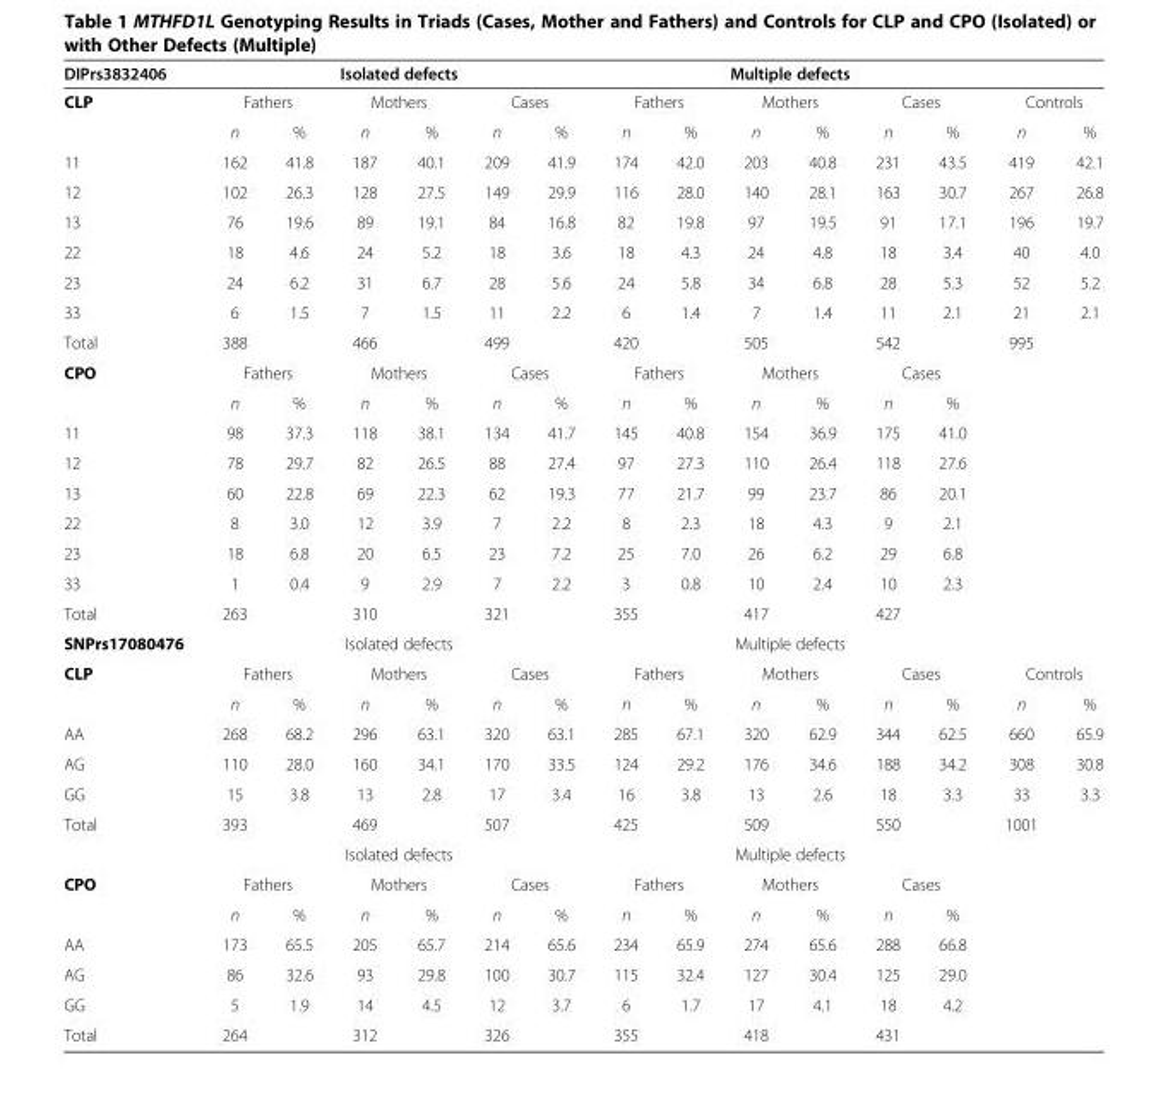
<table><thead><tr><td rowspan="3">DIPrs3832406 CLP</td><td colspan="6">Isolated defects</td><td colspan="6">Multiple defects</td><td></td><td></td></tr><tr><td colspan="2">Fathers</td><td colspan="2">Mothers</td><td colspan="2">Cases</td><td colspan="2">Fathers</td><td colspan="2">Mothers</td><td colspan="2">Cases</td><td colspan="2">Controls</td></tr><tr><td>n</td><td>%</td><td>n</td><td>%</td><td>n</td><td>%</td><td>n</td><td>%</td><td>n</td><td>%</td><td>n</td><td>%</td><td>n</td><td>%</td></tr></thead><tbody><tr><td>11</td><td>162</td><td>41.8</td><td>187</td><td>40.1</td><td>209</td><td>41.9</td><td>174</td><td>42.0</td><td>203</td><td>40.8</td><td>231</td><td>43.5</td><td>419</td><td>42.1</td></tr><tr><td>12</td><td>102</td><td>26.3</td><td>128</td><td>27.5</td><td>149</td><td>29.9</td><td>116</td><td>28.0</td><td>140</td><td>28.1</td><td>163</td><td>30.7</td><td>267</td><td>26.8</td></tr><tr><td>13</td><td>76</td><td>19.6</td><td>89</td><td>19.1</td><td>84</td><td>16.8</td><td>82</td><td>19.8</td><td>97</td><td>19.5</td><td>91</td><td>17.1</td><td>196</td><td>19.7</td></tr><tr><td>22</td><td>18</td><td>4.6</td><td>24</td><td>5.2</td><td>18</td><td>3.6</td><td>18</td><td>4.3</td><td>24</td><td>4.8</td><td>18</td><td>3.4</td><td>40</td><td>4.0</td></tr><tr><td>23</td><td>24</td><td>6.2</td><td>31</td><td>6.7</td><td>28</td><td>5.6</td><td>24</td><td>5.8</td><td>34</td><td>6.8</td><td>28</td><td>5.3</td><td>52</td><td>5.2</td></tr><tr><td>33</td><td>6</td><td>1.5</td><td>7</td><td>1.5</td><td>11</td><td>2.2</td><td>6</td><td>1.4</td><td>7</td><td>1.4</td><td>11</td><td>2.1</td><td>21</td><td>2.1</td></tr><tr><td>Total</td><td>388</td><td></td><td>466</td><td></td><td>499</td><td></td><td>420</td><td></td><td>505</td><td></td><td>542</td><td></td><td>995</td><td></td></tr><tr><td rowspan="2">CPO</td><td colspan="2">Fathers</td><td colspan="2">Mothers</td><td colspan="2">Cases</td><td colspan="2">Fathers</td><td colspan="2">Mothers</td><td colspan="2">Cases</td><td></td><td></td></tr><tr><td>n</td><td>%</td><td>n</td><td>%</td><td>n</td><td>%</td><td>n</td><td>%</td><td>n</td><td>%</td><td>n</td><td>%</td><td></td><td></td></tr><tr><td>11</td><td>98</td><td>37.3</td><td>118</td><td>38.1</td><td>134</td><td>41.7</td><td>145</td><td>40.8</td><td>154</td><td>36.9</td><td>175</td><td>41.0</td><td></td><td></td></tr><tr><td>12</td><td>78</td><td>29.7</td><td>82</td><td>26.5</td><td>88</td><td>27.4</td><td>97</td><td>27.3</td><td>110</td><td>26.4</td><td>118</td><td>27.6</td><td></td><td></td></tr><tr><td>13</td><td>60</td><td>22.8</td><td>69</td><td>22.3</td><td>62</td><td>19.3</td><td>77</td><td>21.7</td><td>99</td><td>23.7</td><td>86</td><td>20.1</td><td></td><td></td></tr><tr><td>22</td><td>8</td><td>3.0</td><td>12</td><td>3.9</td><td>7</td><td>2.2</td><td>8</td><td>2.3</td><td>18</td><td>4.3</td><td>9</td><td>2.1</td><td></td><td></td></tr><tr><td>23</td><td>18</td><td>6.8</td><td>20</td><td>6.5</td><td>23</td><td>7.2</td><td>25</td><td>7.0</td><td>26</td><td>6.2</td><td>29</td><td>6.8</td><td></td><td></td></tr><tr><td>33</td><td>1</td><td>0.4</td><td>9</td><td>2.9</td><td>7</td><td>2.2</td><td>3</td><td>0.8</td><td>10</td><td>2.4</td><td>10</td><td>2.3</td><td></td><td></td></tr><tr><td>Total</td><td>263</td><td></td><td>310</td><td></td><td>321</td><td></td><td>355</td><td></td><td>417</td><td></td><td>427</td><td></td><td></td><td></td></tr><tr><td>SNPrs17080476</td><td colspan="6">Isolated defects</td><td colspan="6">Multiple defects</td><td></td><td></td></tr><tr><td rowspan="2">CLP</td><td colspan="2">Fathers</td><td colspan="2">Mothers</td><td colspan="2">Cases</td><td colspan="2">Fathers</td><td colspan="2">Mothers</td><td colspan="2">Cases</td><td colspan="2">Controls</td></tr><tr><td>n</td><td>%</td><td>n</td><td>%</td><td>n</td><td>%</td><td>n</td><td>%</td><td>n</td><td>%</td><td>n</td><td>%</td><td>n</td><td>%</td></tr><tr><td>AA</td><td>268</td><td>68.2</td><td>296</td><td>63.1</td><td>320</td><td>63.1</td><td>285</td><td>67.1</td><td>320</td><td>62.9</td><td>344</td><td>62.5</td><td>660</td><td>65.9</td></tr><tr><td>AG</td><td>110</td><td>28.0</td><td>160</td><td>34.1</td><td>170</td><td>33.5</td><td>124</td><td>29.2</td><td>176</td><td>34.6</td><td>188</td><td>34.2</td><td>308</td><td>30.8</td></tr><tr><td>GG</td><td>15</td><td>3.8</td><td>13</td><td>2.8</td><td>17</td><td>3.4</td><td>16</td><td>3.8</td><td>13</td><td>2.6</td><td>18</td><td>3.3</td><td>33</td><td>3.3</td></tr><tr><td rowspan="2">Total</td><td>393</td><td></td><td>469</td><td></td><td>507</td><td></td><td>425</td><td></td><td>509</td><td></td><td>550</td><td></td><td>1001</td><td></td></tr><tr><td colspan="6">Isolated defects</td><td colspan="6">Multiple defects</td><td></td><td></td></tr><tr><td rowspan="2">CPO</td><td colspan="2">Fathers</td><td colspan="2">Mothers</td><td colspan="2">Cases</td><td colspan="2">Fathers</td><td colspan="2">Mothers</td><td colspan="2">Cases</td><td colspan="2"></td></tr><tr><td>n</td><td>%</td><td>n</td><td>%</td><td>n</td><td>%</td><td>n</td><td>%</td><td>n</td><td>%</td><td>n</td><td>%</td><td></td><td></td></tr><tr><td>AA</td><td>173</td><td>65.5</td><td>205</td><td>65.7</td><td>214</td><td>65.6</td><td>234</td><td>65.9</td><td>274</td><td>65.6</td><td>288</td><td>66.8</td><td></td><td></td></tr><tr><td>AG</td><td>86</td><td>32.6</td><td>93</td><td>29.8</td><td>100</td><td>30.7</td><td>115</td><td>32.4</td><td>127</td><td>30.4</td><td>125</td><td>29.0</td><td></td><td></td></tr><tr><td>GG</td><td>5</td><td>1.9</td><td>14</td><td>4.5</td><td>12</td><td>3.7</td><td>6</td><td>1.7</td><td>17</td><td>4.1</td><td>18</td><td>4.2</td><td></td><td></td></tr><tr><td>Total</td><td>264</td><td></td><td>312</td><td></td><td>326</td><td></td><td>355</td><td></td><td>418</td><td></td><td>431</td><td></td><td></td><td></td></tr></tbody></table>